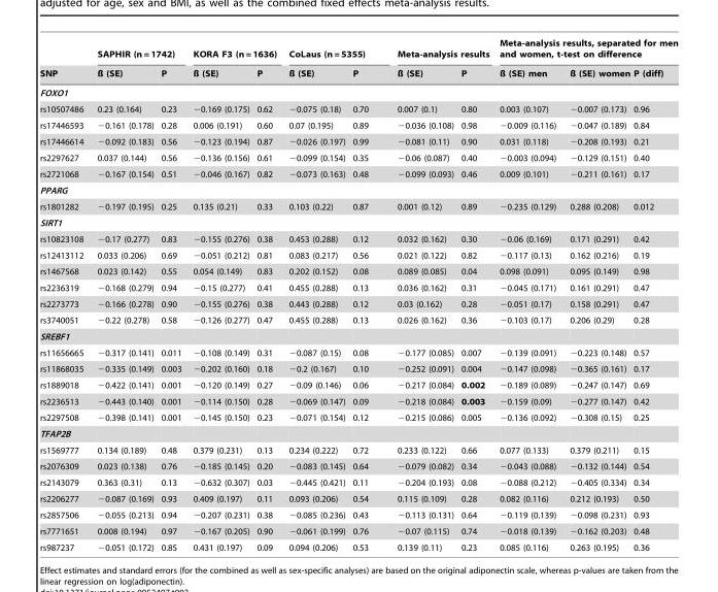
<table><thead><tr><td rowspan="2">SNP</td><td colspan="2">SAPHIR (n = 1742)</td><td colspan="2">KORA F3 (n = 1636)</td><td colspan="2">CoLaus (n = 5355)</td><td colspan="2">Meta-analysis results</td><td colspan="3">Meta-analysis results, separated for men and women, t-test on difference</td></tr><tr><td>ß (SE)</td><td>P</td><td>ß (SE)</td><td>P</td><td>ß (SE)</td><td>P</td><td>ß (SE)</td><td>P</td><td>ß (SE) men</td><td>ß (SE) women</td><td>P (diff)</td></tr></thead><tbody><tr><td colspan="12">FOXO1</td></tr><tr><td>rs10507486</td><td>0.23 (0.164)</td><td>0.23</td><td>−0.169 (0.175)</td><td>0.62</td><td>−0.075 (0.18)</td><td>0.70</td><td>0.007 (0.1)</td><td>0.80</td><td>0.003 (0.107)</td><td>−0.007 (0.173)</td><td>0.96</td></tr><tr><td>rs17446593</td><td>−0.161 (0.178)</td><td>0.28</td><td>0.006 (0.191)</td><td>0.60</td><td>0.07 (0.195)</td><td>0.89</td><td>−0.036 (0.108)</td><td>0.98</td><td>−0.009 (0.116)</td><td>−0.047 (0.189)</td><td>0.84</td></tr><tr><td>rs17446614</td><td>−0.092 (0.183)</td><td>0.56</td><td>−0.123 (0.194)</td><td>0.87</td><td>−0.026 (0.197)</td><td>0.99</td><td>−0.081 (0.11)</td><td>0.90</td><td>0.031 (0.118)</td><td>−0.208 (0.193)</td><td>0.21</td></tr><tr><td>rs2297627</td><td>0.037 (0.144)</td><td>0.56</td><td>−0.136 (0.156)</td><td>0.61</td><td>−0.099 (0.154)</td><td>0.35</td><td>−0.06 (0.087)</td><td>0.40</td><td>−0.003 (0.094)</td><td>−0.129 (0.151)</td><td>0.40</td></tr><tr><td>rs2721068</td><td>−0.167 (0.154)</td><td>0.51</td><td>−0.046 (0.167)</td><td>0.82</td><td>−0.073 (0.163)</td><td>0.48</td><td>−0.099 (0.093)</td><td>0.46</td><td>0.009 (0.101)</td><td>−0.211 (0.161)</td><td>0.17</td></tr><tr><td colspan="12">PPARG</td></tr><tr><td>rs1801282</td><td>−0.197 (0.195)</td><td>0.25</td><td>0.135 (0.21)</td><td>0.33</td><td>0.103 (0.22)</td><td>0.87</td><td>0.001 (0.12)</td><td>0.89</td><td>−0.235 (0.129)</td><td>0.288 (0.208)</td><td>0.012</td></tr><tr><td colspan="12">SIRT1</td></tr><tr><td>rs10823108</td><td>−0.17 (0.277)</td><td>0.83</td><td>−0.155 (0.276)</td><td>0.38</td><td>0.453 (0.288)</td><td>0.12</td><td>0.032 (0.162)</td><td>0.30</td><td>−0.06 (0.169)</td><td>0.171 (0.291)</td><td>0.42</td></tr><tr><td>rs12413112</td><td>0.033 (0.206)</td><td>0.69</td><td>−0.051 (0.212)</td><td>0.81</td><td>0.083 (0.217)</td><td>0.56</td><td>0.021 (0.122)</td><td>0.82</td><td>−0.117 (0.13)</td><td>0.162 (0.216)</td><td>0.19</td></tr><tr><td>rs1467568</td><td>0.023 (0.142)</td><td>0.55</td><td>0.054 (0.149)</td><td>0.83</td><td>0.202 (0.152)</td><td>0.08</td><td>0.089 (0.085)</td><td>0.04</td><td>0.098 (0.091)</td><td>0.095 (0.149)</td><td>0.98</td></tr><tr><td>rs2236319</td><td>−0.168 (0.279)</td><td>0.94</td><td>−0.15 (0.277)</td><td>0.41</td><td>0.455 (0.288)</td><td>0.13</td><td>0.036 (0.162)</td><td>0.31</td><td>−0.045 (0.171)</td><td>0.161 (0.291)</td><td>0.47</td></tr><tr><td>rs2273773</td><td>−0.166 (0.278)</td><td>0.90</td><td>−0.155 (0.276)</td><td>0.38</td><td>0.443 (0.288)</td><td>0.12</td><td>0.03 (0.162)</td><td>0.28</td><td>−0.051 (0.17)</td><td>0.158 (0.291)</td><td>0.47</td></tr><tr><td>rs3740051</td><td>−0.22 (0.278)</td><td>0.58</td><td>−0.126 (0.277)</td><td>0.47</td><td>0.455 (0.288)</td><td>0.13</td><td>0.026 (0.162)</td><td>0.36</td><td>−0.103 (0.17)</td><td>0.206 (0.29)</td><td>0.28</td></tr><tr><td colspan="12">SREBF1</td></tr><tr><td>rs11656665</td><td>−0.317 (0.141)</td><td>0.011</td><td>−0.108 (0.149)</td><td>0.31</td><td>−0.087 (0.15)</td><td>0.08</td><td>−0.177 (0.085)</td><td>0.007</td><td>−0.139 (0.091)</td><td>−0.223 (0.148)</td><td>0.57</td></tr><tr><td>rs11868035</td><td>−0.335 (0.149)</td><td>0.003</td><td>−0.202 (0.160)</td><td>0.18</td><td>−0.2 (0.167)</td><td>0.10</td><td>−0.252 (0.091)</td><td>0.004</td><td>−0.147 (0.098)</td><td>−0.365 (0.161)</td><td>0.17</td></tr><tr><td>rs1889018</td><td>−0.422 (0.141)</td><td>0.001</td><td>−0.120 (0.149)</td><td>0.27</td><td>−0.09 (0.146)</td><td>0.06</td><td>−0.217 (0.084)</td><td>0.002</td><td>−0.189 (0.089)</td><td>−0.247 (0.147)</td><td>0.69</td></tr><tr><td>rs2236513</td><td>−0.443 (0.140)</td><td>0.001</td><td>−0.114 (0.150)</td><td>0.28</td><td>−0.069 (0.147)</td><td>0.09</td><td>−0.218 (0.084)</td><td>0.003</td><td>−0.159 (0.09)</td><td>−0.277 (0.147)</td><td>0.42</td></tr><tr><td>rs2297508</td><td>−0.398 (0.141)</td><td>0.001</td><td>−0.145 (0.150)</td><td>0.23</td><td>−0.071 (0.154)</td><td>0.12</td><td>−0.215 (0.086)</td><td>0.005</td><td>−0.136 (0.092)</td><td>−0.308 (0.15)</td><td>0.25</td></tr><tr><td colspan="12">TFAP2B</td></tr><tr><td>rs1569777</td><td>0.134 (0.189)</td><td>0.48</td><td>0.379 (0.231)</td><td>0.13</td><td>0.234 (0.222)</td><td>0.72</td><td>0.233 (0.122)</td><td>0.66</td><td>0.077 (0.133)</td><td>0.379 (0.211)</td><td>0.15</td></tr><tr><td>rs2076309</td><td>0.023 (0.138)</td><td>0.76</td><td>−0.185 (0.145)</td><td>0.20</td><td>−0.083 (0.145)</td><td>0.64</td><td>−0.079 (0.082)</td><td>0.34</td><td>−0.043 (0.088)</td><td>−0.132 (0.144)</td><td>0.54</td></tr><tr><td>rs2143079</td><td>0.363 (0.31)</td><td>0.13</td><td>−0.632 (0.307)</td><td>0.03</td><td>−0.445 (0.421)</td><td>0.11</td><td>−0.204 (0.193)</td><td>0.08</td><td>−0.088 (0.212)</td><td>−0.405 (0.334)</td><td>0.34</td></tr><tr><td>rs2206277</td><td>−0.087 (0.169)</td><td>0.93</td><td>0.409 (0.197)</td><td>0.11</td><td>0.093 (0.206)</td><td>0.54</td><td>0.115 (0.109)</td><td>0.28</td><td>0.082 (0.116)</td><td>0.212 (0.193)</td><td>0.50</td></tr><tr><td>rs2857506</td><td>−0.055 (0.213)</td><td>0.94</td><td>−0.207 (0.231)</td><td>0.38</td><td>−0.085 (0.236)</td><td>0.43</td><td>−0.113 (0.131)</td><td>0.64</td><td>−0.119 (0.139)</td><td>−0.098 (0.231)</td><td>0.93</td></tr><tr><td>rs7771651</td><td>0.008 (0.194)</td><td>0.97</td><td>−0.167 (0.205)</td><td>0.90</td><td>−0.061 (0.199)</td><td>0.76</td><td>−0.07 (0.115)</td><td>0.74</td><td>−0.018 (0.139)</td><td>−0.162 (0.203)</td><td>0.48</td></tr><tr><td>rs987237</td><td>−0.051 (0.172)</td><td>0.85</td><td>0.431 (0.197)</td><td>0.09</td><td>0.094 (0.206)</td><td>0.53</td><td>0.139 (0.11)</td><td>0.23</td><td>0.085 (0.116)</td><td>0.263 (0.195)</td><td>0.36</td></tr></tbody></table>